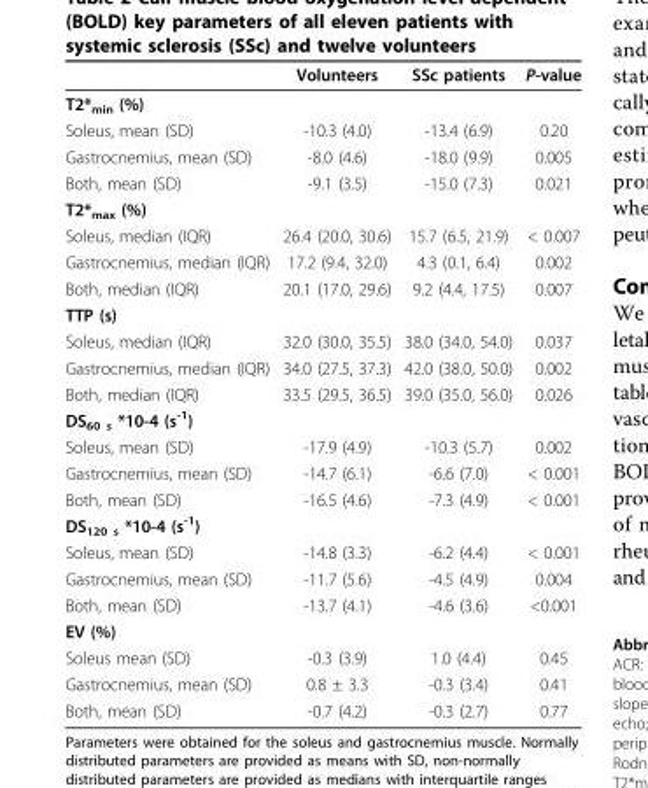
<table><thead><tr><td></td><td>Volunteers</td><td>SSc patients</td><td>P-value</td></tr></thead><tbody><tr><td colspan="4">T2*<sub>min</sub> (%)</td></tr><tr><td>Soleus, mean (SD)</td><td>-10.3 (4.0)</td><td>-13.4 (6.9)</td><td>0.20</td></tr><tr><td>Gastrocnemius, mean (SD)</td><td>-8.0 (4.6)</td><td>-18.0 (9.9)</td><td>0.005</td></tr><tr><td>Both, mean (SD)</td><td>-9.1 (3.5)</td><td>-15.0 (7.3)</td><td>0.021</td></tr><tr><td colspan="4">T2*<sub>max</sub> (%)</td></tr><tr><td>Soleus, median (IQR)</td><td>26.4 (20.0, 30.6)</td><td>15.7 (6.5, 21.9)</td><td>&lt; 0.007</td></tr><tr><td>Gastrocnemius, median (IQR)</td><td>17.2 (9.4, 32.0)</td><td>4.3 (0.1, 6.4)</td><td>0.002</td></tr><tr><td>Both, median (IQR)</td><td>20.1 (17.0, 29.6)</td><td>9.2 (4.4, 17.5)</td><td>0.007</td></tr><tr><td colspan="4">TTP (s)</td></tr><tr><td>Soleus, median (IQR)</td><td>32.0 (30.0, 35.5)</td><td>38.0 (34.0, 54.0)</td><td>0.037</td></tr><tr><td>Gastrocnemius, median (IQR)</td><td>34.0 (27.5, 37.3)</td><td>42.0 (38.0, 50.0)</td><td>0.002</td></tr><tr><td>Both, median (IQR)</td><td>33.5 (29.5, 36.5)</td><td>39.0 (35.0, 56.0)</td><td>0.026</td></tr><tr><td colspan="4">DS<sub>60 s</sub> *10-4 (s<sup>-1</sup>)</td></tr><tr><td>Soleus, mean (SD)</td><td>-17.9 (4.9)</td><td>-10.3 (5.7)</td><td>0.002</td></tr><tr><td>Gastrocnemius, mean (SD)</td><td>-14.7 (6.1)</td><td>-6.6 (7.0)</td><td>&lt; 0.001</td></tr><tr><td>Both, mean (SD)</td><td>-16.5 (4.6)</td><td>-7.3 (4.9)</td><td>&lt; 0.001</td></tr><tr><td colspan="4">DS<sub>120 s</sub> *10-4 (s<sup>-1</sup>)</td></tr><tr><td>Soleus, mean (SD)</td><td>-14.8 (3.3)</td><td>-6.2 (4.4)</td><td>&lt; 0.001</td></tr><tr><td>Gastrocnemius, mean (SD)</td><td>-11.7 (5.6)</td><td>-4.5 (4.9)</td><td>0.004</td></tr><tr><td>Both, mean (SD)</td><td>-13.7 (4.1)</td><td>-4.6 (3.6)</td><td>&lt;0.001</td></tr><tr><td colspan="4">EV (%)</td></tr><tr><td>Soleus mean (SD)</td><td>-0.3 (3.9)</td><td>1.0 (4.4)</td><td>0.45</td></tr><tr><td>Gastrocnemius, mean (SD)</td><td>0.8 ± 3.3</td><td>-0.3 (3.4)</td><td>0.41</td></tr><tr><td>Both, mean (SD)</td><td>-0.7 (4.2)</td><td>-0.3 (2.7)</td><td>0.77</td></tr></tbody></table>